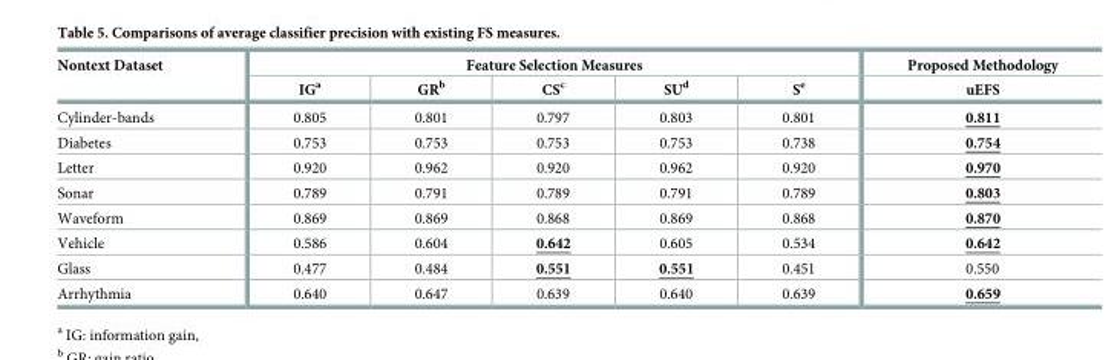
<table><thead><tr><td rowspan="2">Nontext Dataset</td><td colspan="5">Feature Selection Measures</td><td rowspan="2">Proposed Methodology uEFS</td></tr><tr><td>IG<sup>a</sup></td><td>GR<sup>b</sup></td><td>CS<sup>c</sup></td><td>SU<sup>d</sup></td><td>S<sup>e</sup></td></tr></thead><tbody><tr><td>Cylinder-bands</td><td>0.805</td><td>0.801</td><td>0.797</td><td>0.803</td><td>0.801</td><td>0.811</td></tr><tr><td>Diabetes</td><td>0.753</td><td>0.753</td><td>0.753</td><td>0.753</td><td>0.738</td><td>0.754</td></tr><tr><td>Letter</td><td>0.920</td><td>0.962</td><td>0.920</td><td>0.962</td><td>0.920</td><td>0.970</td></tr><tr><td>Sonar</td><td>0.789</td><td>0.791</td><td>0.789</td><td>0.791</td><td>0.789</td><td>0.803</td></tr><tr><td>Waveform</td><td>0.869</td><td>0.869</td><td>0.868</td><td>0.869</td><td>0.868</td><td>0.870</td></tr><tr><td>Vehicle</td><td>0.586</td><td>0.604</td><td>0.642</td><td>0.605</td><td>0.534</td><td>0.642</td></tr><tr><td>Glass</td><td>0.477</td><td>0.484</td><td>0.551</td><td>0.551</td><td>0.451</td><td>0.550</td></tr><tr><td>Arrhythmia</td><td>0.640</td><td>0.647</td><td>0.639</td><td>0.640</td><td>0.639</td><td>0.659</td></tr></tbody></table>